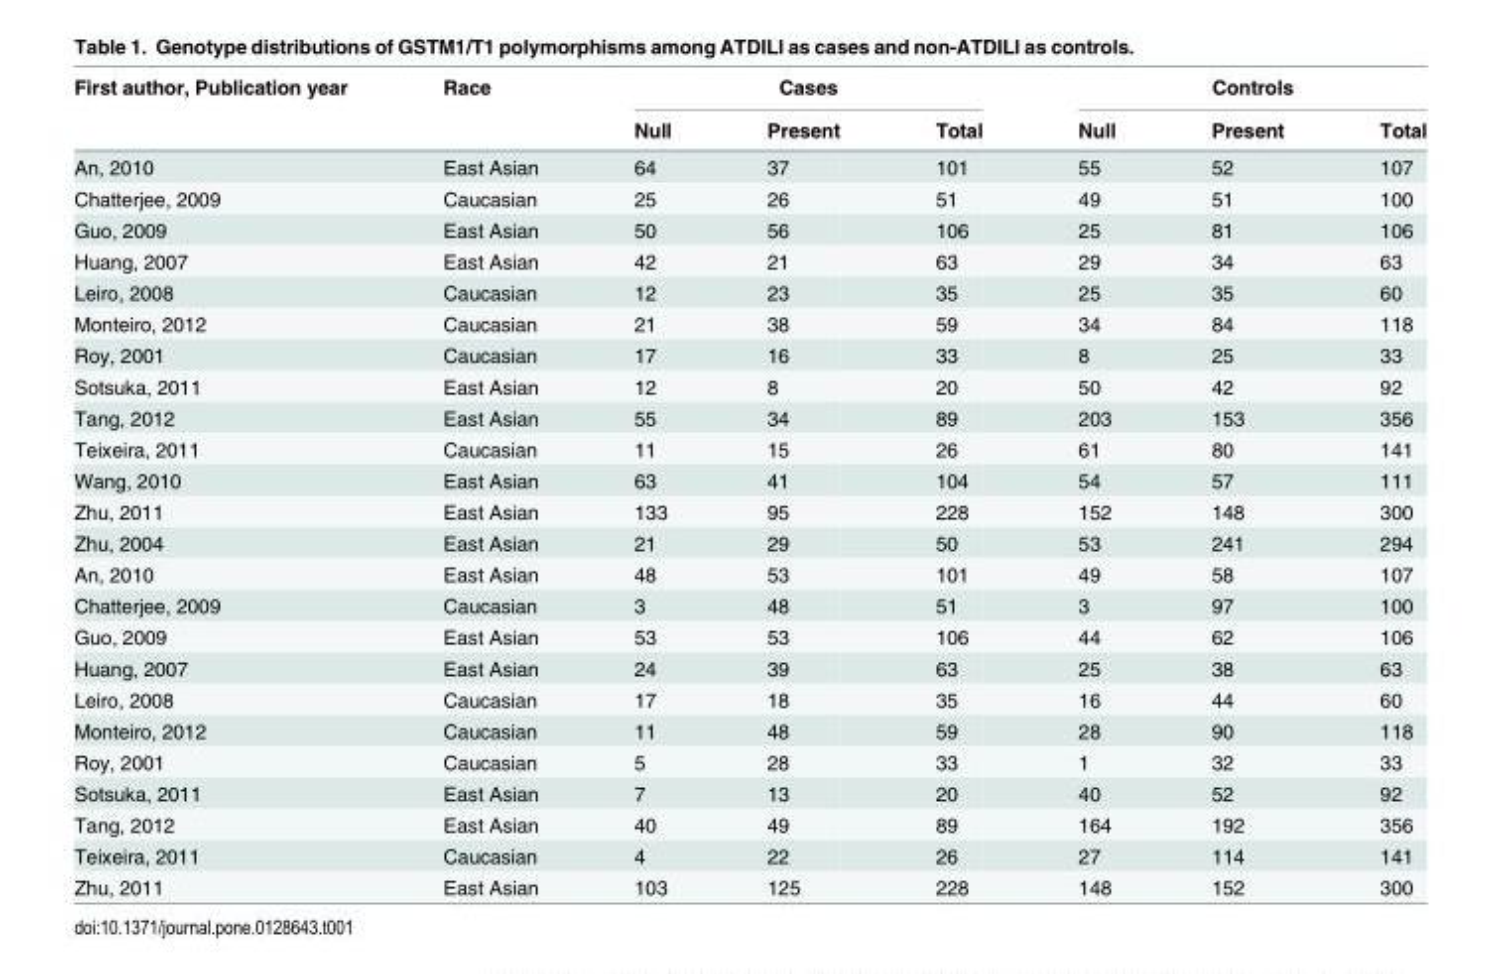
<table><thead><tr><td rowspan="2">First author, Publication year</td><td rowspan="2">Race</td><td colspan="3">Cases</td><td colspan="3">Controls</td></tr><tr><td>Null</td><td>Present</td><td>Total</td><td>Null</td><td>Present</td><td>Total</td></tr></thead><tbody><tr><td>An, 2010</td><td>East Asian</td><td>64</td><td>37</td><td>101</td><td>55</td><td>52</td><td>107</td></tr><tr><td>Chatterjee, 2009</td><td>Caucasian</td><td>25</td><td>26</td><td>51</td><td>49</td><td>51</td><td>100</td></tr><tr><td>Guo, 2009</td><td>East Asian</td><td>50</td><td>56</td><td>106</td><td>25</td><td>81</td><td>106</td></tr><tr><td>Huang, 2007</td><td>East Asian</td><td>42</td><td>21</td><td>63</td><td>29</td><td>34</td><td>63</td></tr><tr><td>Leiro, 2008</td><td>Caucasian</td><td>12</td><td>23</td><td>35</td><td>25</td><td>35</td><td>60</td></tr><tr><td>Monteiro, 2012</td><td>Caucasian</td><td>21</td><td>38</td><td>59</td><td>34</td><td>84</td><td>118</td></tr><tr><td>Roy, 2001</td><td>Caucasian</td><td>17</td><td>16</td><td>33</td><td>8</td><td>25</td><td>33</td></tr><tr><td>Sotsuka, 2011</td><td>East Asian</td><td>12</td><td>8</td><td>20</td><td>50</td><td>42</td><td>92</td></tr><tr><td>Tang, 2012</td><td>East Asian</td><td>55</td><td>34</td><td>89</td><td>203</td><td>153</td><td>356</td></tr><tr><td>Teixeira, 2011</td><td>Caucasian</td><td>11</td><td>15</td><td>26</td><td>61</td><td>80</td><td>141</td></tr><tr><td>Wang, 2010</td><td>East Asian</td><td>63</td><td>41</td><td>104</td><td>54</td><td>57</td><td>111</td></tr><tr><td>Zhu, 2011</td><td>East Asian</td><td>133</td><td>95</td><td>228</td><td>152</td><td>148</td><td>300</td></tr><tr><td>Zhu, 2004</td><td>East Asian</td><td>21</td><td>29</td><td>50</td><td>53</td><td>241</td><td>294</td></tr><tr><td>An, 2010</td><td>East Asian</td><td>48</td><td>53</td><td>101</td><td>49</td><td>58</td><td>107</td></tr><tr><td>Chatterjee, 2009</td><td>Caucasian</td><td>3</td><td>48</td><td>51</td><td>3</td><td>97</td><td>100</td></tr><tr><td>Guo, 2009</td><td>East Asian</td><td>53</td><td>53</td><td>106</td><td>44</td><td>62</td><td>106</td></tr><tr><td>Huang, 2007</td><td>East Asian</td><td>24</td><td>39</td><td>63</td><td>25</td><td>38</td><td>63</td></tr><tr><td>Leiro, 2008</td><td>Caucasian</td><td>17</td><td>18</td><td>35</td><td>16</td><td>44</td><td>60</td></tr><tr><td>Monteiro, 2012</td><td>Caucasian</td><td>11</td><td>48</td><td>59</td><td>28</td><td>90</td><td>118</td></tr><tr><td>Roy, 2001</td><td>Caucasian</td><td>5</td><td>28</td><td>33</td><td>1</td><td>32</td><td>33</td></tr><tr><td>Sotsuka, 2011</td><td>East Asian</td><td>7</td><td>13</td><td>20</td><td>40</td><td>52</td><td>92</td></tr><tr><td>Tang, 2012</td><td>East Asian</td><td>40</td><td>49</td><td>89</td><td>164</td><td>192</td><td>356</td></tr><tr><td>Teixeira, 2011</td><td>Caucasian</td><td>4</td><td>22</td><td>26</td><td>27</td><td>114</td><td>141</td></tr><tr><td>Zhu, 2011</td><td>East Asian</td><td>103</td><td>125</td><td>228</td><td>148</td><td>152</td><td>300</td></tr></tbody></table>